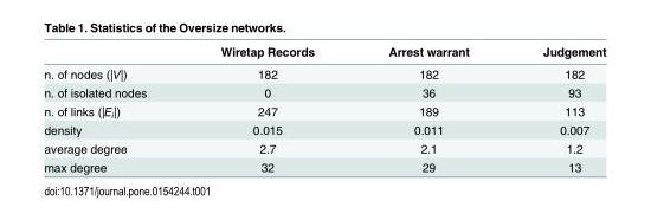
<table><thead><tr><td></td><td>Wiretap Records</td><td>Arrest warrant</td><td>Judgement</td></tr></thead><tbody><tr><td>n. of nodes (|V|)</td><td>182</td><td>182</td><td>182</td></tr><tr><td>n. of isolated nodes</td><td>0</td><td>36</td><td>93</td></tr><tr><td>n. of links (|E<sub>i</sub>|)</td><td>247</td><td>189</td><td>113</td></tr><tr><td>density</td><td>0.015</td><td>0.011</td><td>0.007</td></tr><tr><td>average degree</td><td>2.7</td><td>2.1</td><td>1.2</td></tr><tr><td>max degree</td><td>32</td><td>29</td><td>13</td></tr></tbody></table>